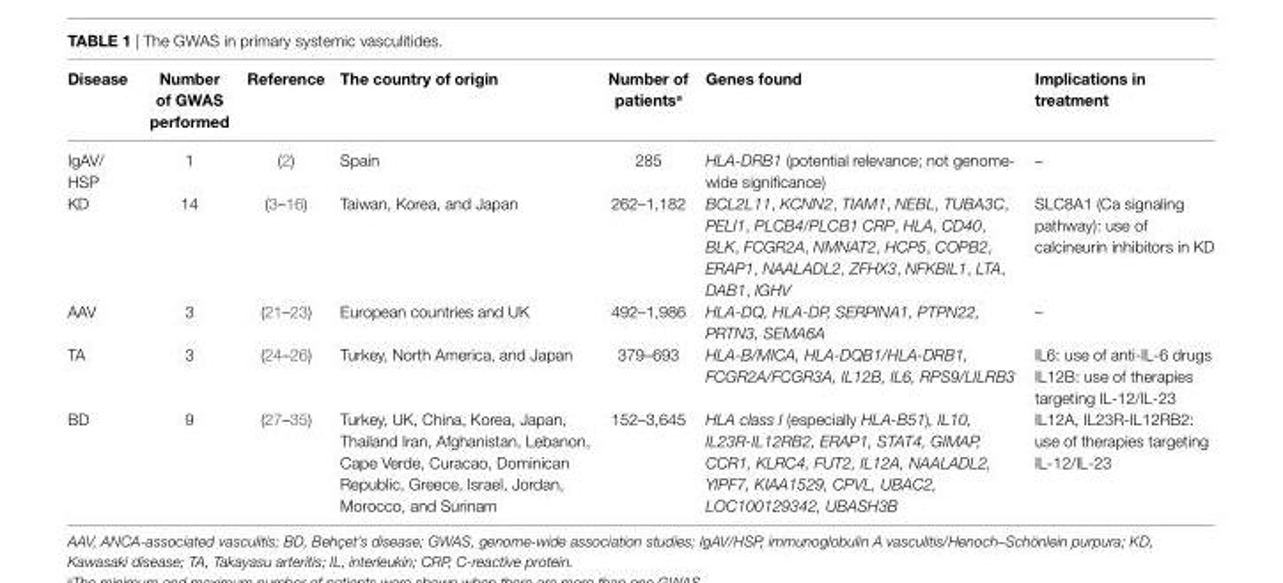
<table><thead><tr><td>Disease</td><td>Number of GwAS performed</td><td>Reference</td><td>The country of origin</td><td>Number of patients<sup>a</sup></td><td>Genes found</td><td>implications in treatment</td></tr></thead><tbody><tr><td>IgAV/ HSP</td><td>1</td><td>(2)</td><td>Spain</td><td>285</td><td>HLA-DRB1 (potential relevance; not genome- wide significance)</td><td>–</td></tr><tr><td>KD</td><td>14</td><td>(3–16)</td><td>Taiwan, Korea, and Japan</td><td>262–1,182</td><td>BCL2L11, KCNN2, TIAM1, NEBL, TUBA3C, PELI1, PLCB4/PLCB1 CRP, HLA, CD40, BLK, FCGR2A, NMNAT2, HCP5, COPB2, ERAP1, NAALADL2, ZFHX3, NFKBIL1, LTA, DAB1, IGHV</td><td>SLC8A1 (Ca signaling pathway): use of calcineurin inhibitors in KD</td></tr><tr><td>AAV</td><td>3</td><td>(21–23)</td><td>European countries and UK</td><td>492–1,986</td><td>HLA-DQ, HLA-DP, SERPINA1, PTPN22, PRTN3, SEMA6A</td><td>–</td></tr><tr><td rowspan="2">TA</td><td rowspan="2">3</td><td rowspan="2">(24–26)</td><td rowspan="2">Turkey, North America, and Japan</td><td rowspan="2">379–693</td><td rowspan="2">HLA-B/MICA, HLA-DQB1/HLA-DRB1, FCGR2A/FCGR3A, IL12B, IL6, RPS9/LILRB3</td><td>IL6: use of anti-IL-6 drugs</td></tr><tr><td>IL12B: use of therapies targeting IL-12/IL-23</td></tr><tr><td>BD</td><td>9</td><td>(27–35)</td><td>Turkey, UK, China, Korea, Japan, Thailand Iran, Afghanistan, Lebanon, Cape Verde, Curacao, Dominican Republic, Greece, Israel, Jordan, Morocco, and Surinam</td><td>152–3,645</td><td>HLA class I (especially HLA-B51), IL10, IL23R-IL12RB2, ERAP1, STAT4, GIMAP, CCR1, KLRC4, FUT2, IL12A, NAALADL2, YIPF7, KIAA1529, CPVL, UBAC2, LOC100129342, UBASH3B</td><td>IL12A, IL23R-IL12RB2: use of therapies targeting IL-12/IL-23</td></tr></tbody></table>